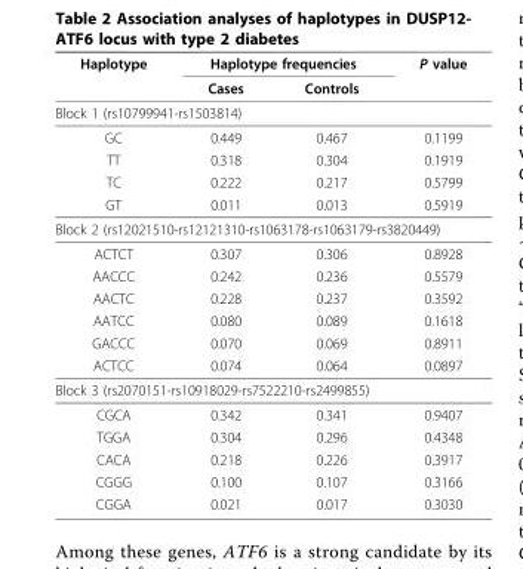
<table><thead><tr><td rowspan="2">Haplotype</td><td colspan="2">Haplotype frequencies</td><td rowspan="2">P value</td></tr><tr><td>Cases</td><td>Controls</td></tr></thead><tbody><tr><td colspan="4">Block 1 (rs10799941-rs1503814)</td></tr><tr><td>GC</td><td>0.449</td><td>0.467</td><td>0.1199</td></tr><tr><td>TT</td><td>0.318</td><td>0.304</td><td>0.1919</td></tr><tr><td>TC</td><td>0.222</td><td>0.217</td><td>0.5799</td></tr><tr><td>GT</td><td>0.011</td><td>0.013</td><td>0.5919</td></tr><tr><td colspan="4">Block 2 (rs12021510-rs12121310-rs1063178-rs1063179-rs3820449)</td></tr><tr><td>ACTCT</td><td>0.307</td><td>0.306</td><td>0.8928</td></tr><tr><td>AACCC</td><td>0.242</td><td>0.236</td><td>0.5579</td></tr><tr><td>AACTC</td><td>0.228</td><td>0.237</td><td>0.3592</td></tr><tr><td>AATCC</td><td>0.080</td><td>0.089</td><td>0.1618</td></tr><tr><td>GACCC</td><td>0.070</td><td>0.069</td><td>0.8911</td></tr><tr><td>ACTCC</td><td>0.074</td><td>0.064</td><td>0.0897</td></tr><tr><td colspan="4">Block 3 (rs2070151-rs10918029-rs7522210-rs2499855)</td></tr><tr><td>CGCA</td><td>0.342</td><td>0.341</td><td>0.9407</td></tr><tr><td>TGGA</td><td>0.304</td><td>0.296</td><td>0.4348</td></tr><tr><td>CACA</td><td>0.218</td><td>0.226</td><td>0.3917</td></tr><tr><td>CGGG</td><td>0.100</td><td>0.107</td><td>0.3166</td></tr><tr><td>CGGA</td><td>0.021</td><td>0.017</td><td>0.3030</td></tr></tbody></table>